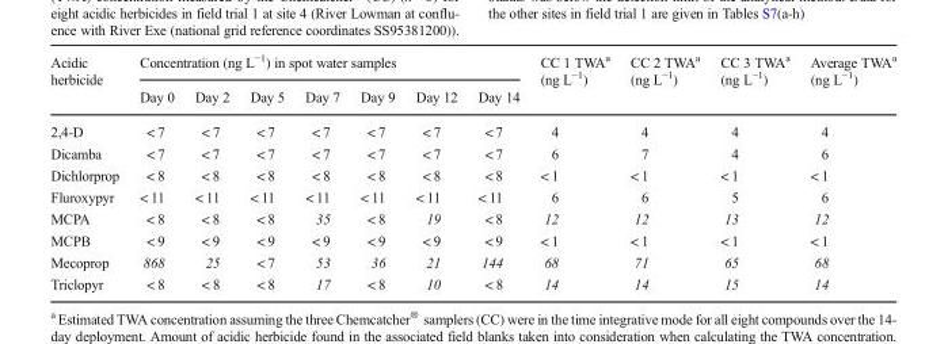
<table><thead><tr><td rowspan="2">Acidic herbicide</td><td colspan="7">Concentration (ng L<sup>−1</sup>) in spot water samples</td><td rowspan="2">CC 1 TWA<sup>a</sup> (ng L<sup>−1</sup>)</td><td rowspan="2">CC 2 TWA<sup>a</sup> (ng L<sup>−1</sup>)</td><td rowspan="2">CC 3 TWA<sup>a</sup> (ng L<sup>−1</sup>)</td><td rowspan="2">Average TWA<sup>a</sup> (ng L<sup>−1</sup>)</td></tr><tr><td>Day 0</td><td>Day 2</td><td>Day 5</td><td>Day 7</td><td>Day 9</td><td>Day 12</td><td>Day 14</td></tr></thead><tbody><tr><td>2,4-D</td><td>&lt; 7</td><td>&lt; 7</td><td>&lt; 7</td><td>&lt; 7</td><td>&lt; 7</td><td>&lt; 7</td><td>&lt; 7</td><td>4</td><td>4</td><td>4</td><td>4</td></tr><tr><td>Dicamba</td><td>&lt; 7</td><td>&lt; 7</td><td>&lt; 7</td><td>&lt; 7</td><td>&lt; 7</td><td>&lt; 7</td><td>&lt; 7</td><td>6</td><td>7</td><td>4</td><td>6</td></tr><tr><td>Dichlorprop</td><td>&lt; 8</td><td>&lt; 8</td><td>&lt; 8</td><td>&lt; 8</td><td>&lt; 8</td><td>&lt; 8</td><td>&lt; 8</td><td>&lt; 1</td><td>&lt; 1</td><td>&lt; 1</td><td>&lt; 1</td></tr><tr><td>Fluroxypyr</td><td>&lt; 11</td><td>&lt; 11</td><td>&lt; 11</td><td>&lt; 11</td><td>&lt; 11</td><td>&lt; 11</td><td>&lt; 11</td><td>6</td><td>6</td><td>5</td><td>6</td></tr><tr><td>MCPA</td><td>&lt; 8</td><td>&lt; 8</td><td>&lt; 8</td><td>35</td><td>&lt; 8</td><td>19</td><td>&lt; 8</td><td>12</td><td>12</td><td>13</td><td>12</td></tr><tr><td>MCPB</td><td>&lt; 9</td><td>&lt; 9</td><td>&lt; 9</td><td>&lt; 9</td><td>&lt; 9</td><td>&lt; 9</td><td>&lt; 9</td><td>&lt; 1</td><td>&lt; 1</td><td>&lt; 1</td><td>&lt; 1</td></tr><tr><td>Mecoprop</td><td>868</td><td>25</td><td>&lt; 7</td><td>53</td><td>36</td><td>21</td><td>144</td><td>68</td><td>71</td><td>65</td><td>68</td></tr><tr><td>Triclopyr</td><td>&lt; 8</td><td>&lt; 8</td><td>&lt; 8</td><td>17</td><td>&lt; 8</td><td>10</td><td>&lt; 8</td><td>14</td><td>14</td><td>15</td><td>14</td></tr></tbody></table>